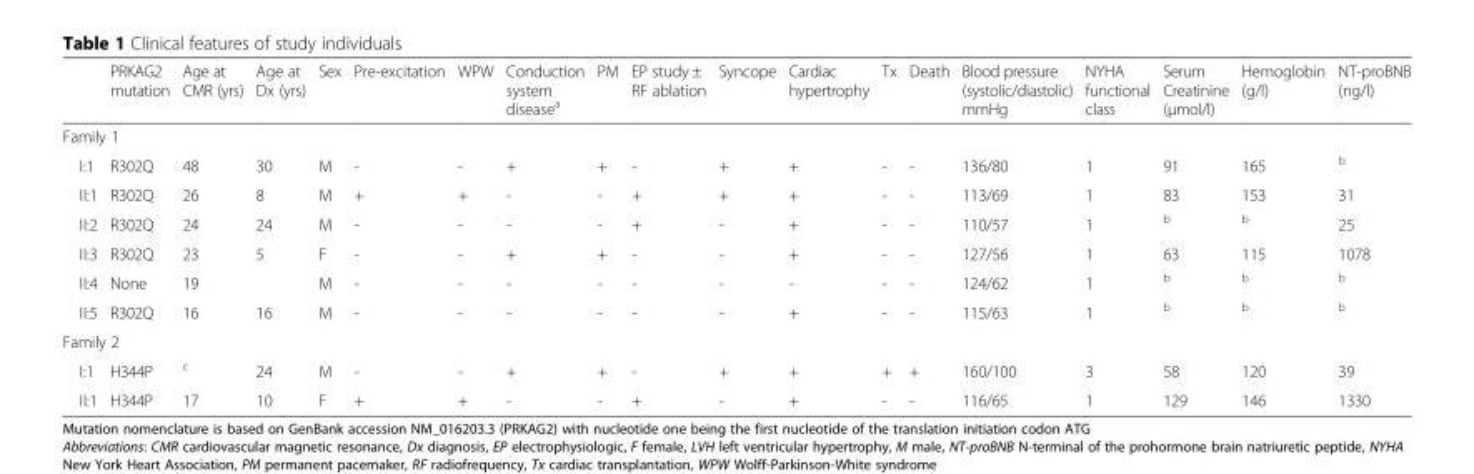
<table><thead><tr><td></td><td>PRKAG2 mutation</td><td>Age at CMR (yrs)</td><td>Age at Dx (yrs)</td><td>Sex</td><td>Pre-excitation</td><td>WPW</td><td>Conduction system disease<sup>a</sup></td><td>PM</td><td>EP study ± RF ablation</td><td>Syncope</td><td>Cardiac hypertrophy</td><td>Tx</td><td>Death</td><td>Blood pressure (systolic/diastolic) mmHg</td><td>NYHA functional class</td><td>Serum Creatinine (μmol/l)</td><td>Hemoglobin (g/l)</td><td>NT-proBNB (ng/l)</td></tr></thead><tbody><tr><td colspan="19">Family 1</td></tr><tr><td>I:1</td><td>R302Q</td><td>48</td><td>30</td><td>M</td><td>-</td><td>-</td><td>+</td><td>+</td><td>-</td><td>+</td><td>+</td><td>-</td><td>-</td><td>136/80</td><td>1</td><td>91</td><td>165</td><td><sup>b</sup></td></tr><tr><td>II:1</td><td>R302Q</td><td>26</td><td>8</td><td>M</td><td>+</td><td>+</td><td>-</td><td>-</td><td>+</td><td>+</td><td>+</td><td>-</td><td>-</td><td>113/69</td><td>1</td><td>83</td><td>153</td><td>31</td></tr><tr><td>II:2</td><td>R302Q</td><td>24</td><td>24</td><td>M</td><td>-</td><td>-</td><td>-</td><td>-</td><td>+</td><td>-</td><td>+</td><td>-</td><td>-</td><td>110/57</td><td>1</td><td><sup>b</sup></td><td><sup>b</sup></td><td>25</td></tr><tr><td>II:3</td><td>R302Q</td><td>23</td><td>5</td><td>F</td><td>-</td><td>-</td><td>+</td><td>+</td><td>-</td><td>-</td><td>+</td><td>-</td><td>-</td><td>127/56</td><td>1</td><td>63</td><td>115</td><td>1078</td></tr><tr><td>II:4</td><td>None</td><td>19</td><td></td><td>M</td><td>-</td><td>-</td><td>-</td><td>-</td><td>-</td><td>-</td><td>-</td><td>-</td><td>-</td><td>124/62</td><td>1</td><td><sup>b</sup></td><td><sup>b</sup></td><td><sup>b</sup></td></tr><tr><td>II:5</td><td>R302Q</td><td>16</td><td>16</td><td>M</td><td>-</td><td>-</td><td>-</td><td>-</td><td>-</td><td>-</td><td>+</td><td>-</td><td>-</td><td>115/63</td><td>1</td><td><sup>b</sup></td><td><sup>b</sup></td><td><sup>b</sup></td></tr><tr><td colspan="19">Family 2</td></tr><tr><td>I:1</td><td>H344P</td><td><sup>c</sup></td><td>24</td><td>M</td><td>-</td><td>-</td><td>+</td><td>+</td><td>-</td><td>+</td><td>+</td><td>+</td><td>+</td><td>160/100</td><td>3</td><td>58</td><td>120</td><td>39</td></tr><tr><td>II:1</td><td>H344P</td><td>17</td><td>10</td><td>F</td><td>+</td><td>+</td><td>-</td><td>-</td><td>+</td><td>-</td><td>+</td><td>-</td><td>-</td><td>116/65</td><td>1</td><td>129</td><td>146</td><td>1330</td></tr></tbody></table>